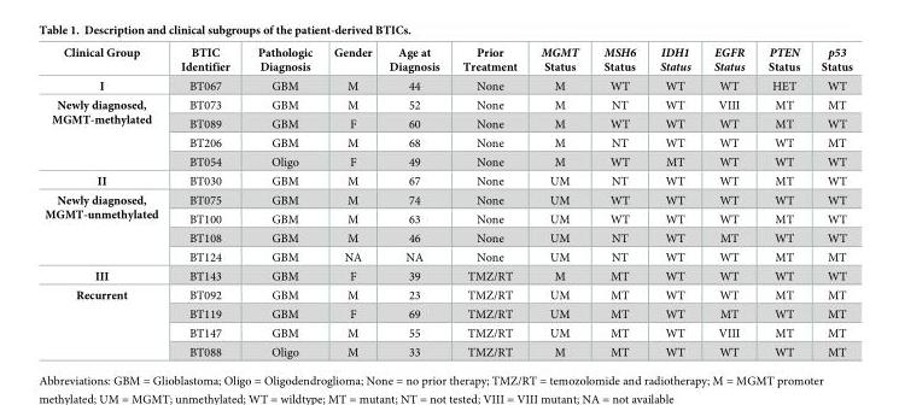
<table><thead><tr><td>Clinical Group</td><td>BTIC Identifier</td><td>Pathologic Diagnosis</td><td>Gender</td><td>Age at Diagnosis</td><td>Prior Treatment</td><td>MGMT Status</td><td>MSH6 Status</td><td>IDH1 Status</td><td>EGFR Status</td><td>PTEN Status</td><td>p53 Status</td></tr></thead><tbody><tr><td>I</td><td>BT067</td><td>GBM</td><td>M</td><td>44</td><td>None</td><td>M</td><td>WT</td><td>WT</td><td>WT</td><td>HET</td><td>WT</td></tr><tr><td rowspan="4">Newly diagnosed, MGMT-methylated</td><td>BT073</td><td>GBM</td><td>M</td><td>52</td><td>None</td><td>M</td><td>NT</td><td>WT</td><td>VIII</td><td>MT</td><td>MT</td></tr><tr><td>BT089</td><td>GBM</td><td>F</td><td>60</td><td>None</td><td>M</td><td>WT</td><td>WT</td><td>WT</td><td>MT</td><td>WT</td></tr><tr><td>BT206</td><td>GBM</td><td>M</td><td>68</td><td>None</td><td>M</td><td>NT</td><td>WT</td><td>WT</td><td>WT</td><td>MT</td></tr><tr><td>BT054</td><td>Oligo</td><td>F</td><td>49</td><td>None</td><td>M</td><td>WT</td><td>MT</td><td>WT</td><td>WT</td><td>WT</td></tr><tr><td>II</td><td>BT030</td><td>GBM</td><td>M</td><td>67</td><td>None</td><td>UM</td><td>NT</td><td>WT</td><td>WT</td><td>MT</td><td>WT</td></tr><tr><td rowspan="4">Newly diagnosed, MGMT-unmethylated</td><td>BT075</td><td>GBM</td><td>M</td><td>74</td><td>None</td><td>UM</td><td>WT</td><td>WT</td><td>WT</td><td>WT</td><td>WT</td></tr><tr><td>BT100</td><td>GBM</td><td>M</td><td>63</td><td>None</td><td>UM</td><td>WT</td><td>WT</td><td>WT</td><td>MT</td><td>WT</td></tr><tr><td>BT108</td><td>GBM</td><td>M</td><td>46</td><td>None</td><td>UM</td><td>NT</td><td>WT</td><td>MT</td><td>WT</td><td>WT</td></tr><tr><td>BT124</td><td>GBM</td><td>NA</td><td>NA</td><td>None</td><td>UM</td><td>NT</td><td>WT</td><td>WT</td><td>MT</td><td>MT</td></tr><tr><td>III</td><td>BT143</td><td>GBM</td><td>F</td><td>39</td><td>TMZ/RT</td><td>M</td><td>MT</td><td>WT</td><td>WT</td><td>WT</td><td>WT</td></tr><tr><td rowspan="4">Recurrent</td><td>BT092</td><td>GBM</td><td>M</td><td>23</td><td>TMZ/RT</td><td>UM</td><td>MT</td><td>WT</td><td>WT</td><td>MT</td><td>MT</td></tr><tr><td>BT119</td><td>GBM</td><td>F</td><td>69</td><td>TMZ/RT</td><td>UM</td><td>MT</td><td>WT</td><td>MT</td><td>WT</td><td>MT</td></tr><tr><td>BT147</td><td>GBM</td><td>M</td><td>55</td><td>TMZ/RT</td><td>UM</td><td>MT</td><td>WT</td><td>VIII</td><td>MT</td><td>MT</td></tr><tr><td>BT088</td><td>Oligo</td><td>M</td><td>33</td><td>TMZ/RT</td><td>M</td><td>MT</td><td>WT</td><td>WT</td><td>WT</td><td>MT</td></tr></tbody></table>